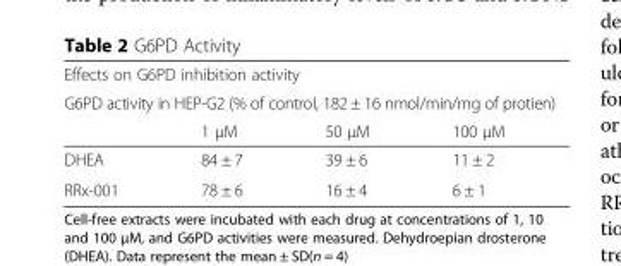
<table><thead><tr><td rowspan="2" colspan="4">Effects on G6PD inhibition activity G6PD activity in HEP-G2 (% of control, 182 ± 16 nmol/min/mg of protien)</td></tr><tr></tr><tr><td></td><td>1 μM</td><td>50 μM</td><td>100 μM</td></tr></thead><tbody><tr><td>DHEA</td><td>84 ± 7</td><td>39 ± 6</td><td>11 ± 2</td></tr><tr><td>RRx-001</td><td>78 ± 6</td><td>16 ± 4</td><td>6 ± 1</td></tr></tbody></table>